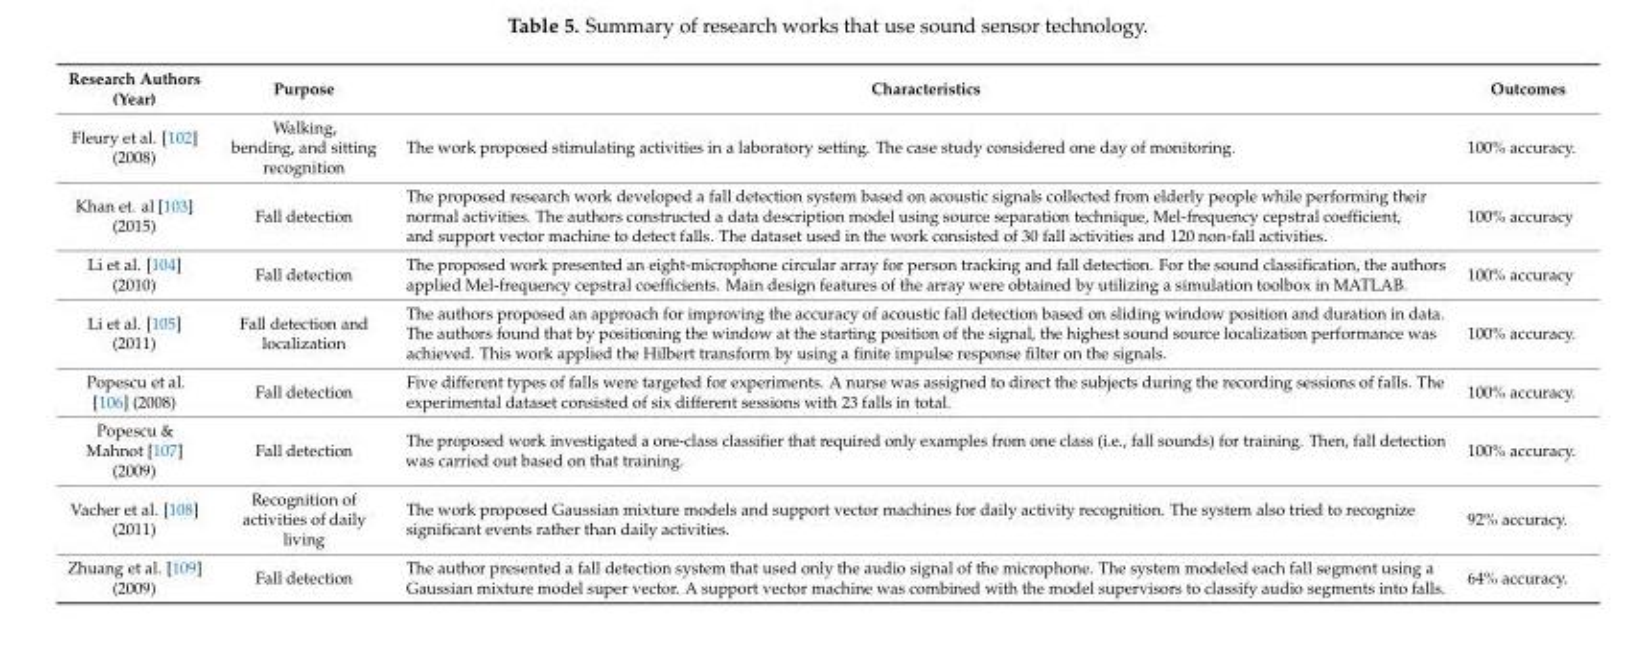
<table><thead><tr><td>Research Authors (Year)</td><td>Purpose</td><td>Characteristics</td><td>Outcomes</td></tr></thead><tbody><tr><td>Fleury et al. [102] (2008)</td><td>Walking, bending, and sitting recognition</td><td>The work proposed stimulating activities in a laboratory setting. The case study considered one day of monitoring.</td><td>100% accuracy.</td></tr><tr><td>Khan et. al [103] (2015)</td><td>Fall detection</td><td>The proposed research work developed a fall detection system based on acoustic signals collected from elderly people while performing their normal activities. The authors constructed a data description model using source separation technique, Mel-frequency cepstral coefficient, and support vector machine to detect falls. The dataset used in the work consisted of 30 fall activities and 120 non-fall activities.</td><td>100% accuracy</td></tr><tr><td>Li et al. [104] (2010)</td><td>Fall detection</td><td>The proposed work presented an eight-microphone circular array for person tracking and fall detection. For the sound classification, the authors applied Mel-frequency cepstral coefficients. Main design features of the array were obtained by utilizing a simulation toolbox in MATLAB.</td><td>100% accuracy</td></tr><tr><td>Li et al. [105] (2011)</td><td>Fall detection and localization</td><td>The authors proposed an approach for improving the accuracy of acoustic fall detection based on sliding window position and duration in data. The authors found that by positioning the window at the starting position of the signal, the highest sound source localization performance was achieved. This work applied the Hilbert transform by using a finite impulse response filter on the signals.</td><td>100% accuracy.</td></tr><tr><td>Popescu et al. [106] (2008)</td><td>Fall detection</td><td>Five different types of falls were targeted for experiments. A nurse was assigned to direct the subjects during the recording sessions of falls. The experimental dataset consisted of six different sessions with 23 falls in total.</td><td>100% accuracy.</td></tr><tr><td>Popescu &amp; Mahnot [107] (2009)</td><td>Fall detection</td><td>The proposed work investigated a one-class classifier that required only examples from one class (i.e., fall sounds) for training. Then, fall detection was carried out based on that training.</td><td>100% accuracy.</td></tr><tr><td>Vacher et al. [108] (2011)</td><td>Recognition of activities of daily living</td><td>The work proposed Gaussian mixture models and support vector machines for daily activity recognition. The system also tried to recognize significant events rather than daily activities.</td><td>92% accuracy.</td></tr><tr><td>Zhuang et al. [109] (2009)</td><td>Fall detection</td><td>The author presented a fall detection system that used only the audio signal of the microphone. The system modeled each fall segment using a Gaussian mixture model super vector. A support vector machine was combined with the model supervisors to classify audio segments into falls.</td><td>64% accuracy.</td></tr></tbody></table>